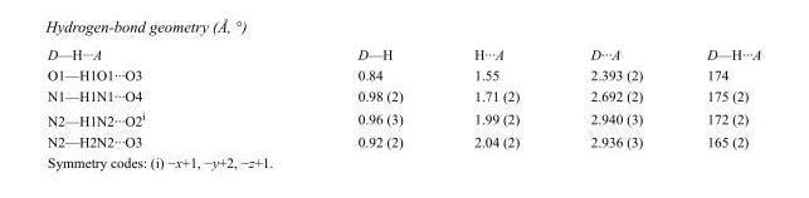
<table><tbody><tr><td>D—H···A</td><td>D—H</td><td>H···A</td><td>D···A</td><td>D—H···A</td></tr><tr><td>O1—H1O1···O3</td><td>0.84</td><td>1.55</td><td>2.393 (2)</td><td>174</td></tr><tr><td>N1—H1N1···O4</td><td>0.98 (2)</td><td>1.71 (2)</td><td>2.692 (2)</td><td>175 (2)</td></tr><tr><td>N2—H1N2···O2<sup>i</sup></td><td>0.96 (3)</td><td>1.99 (2)</td><td>2.940 (3)</td><td>172 (2)</td></tr><tr><td>N2—H2N2···O3</td><td>0.92 (2)</td><td>2.04 (2)</td><td>2.936 (3)</td><td>165 (2)</td></tr></tbody></table>